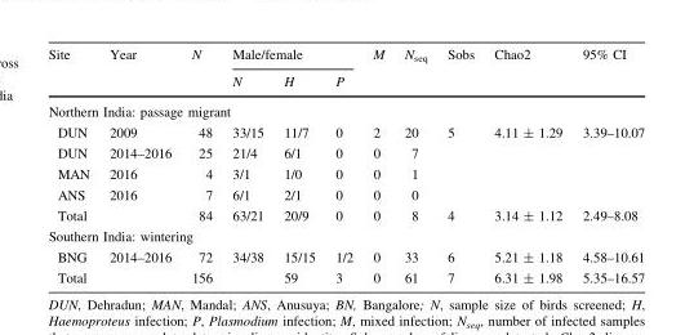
<table><thead><tr><td rowspan="2">Site</td><td rowspan="2">Year</td><td rowspan="2">N</td><td colspan="3">Male/female</td><td rowspan="2">M</td><td rowspan="2">N<sub>seq</sub></td><td rowspan="2">Sobs</td><td rowspan="2">Chao2</td><td rowspan="2">95% CI</td></tr><tr><td>N</td><td>H</td><td>P</td></tr></thead><tbody><tr><td colspan="11">Northern India: passage migrant</td></tr><tr><td>DUN</td><td>2009</td><td>48</td><td>33/15</td><td>11/7</td><td>0</td><td>2</td><td>20</td><td>5</td><td>4.11 ± 1.29</td><td>3.39–10.07</td></tr><tr><td>DUN</td><td>2014–2016</td><td>25</td><td>21/4</td><td>6/1</td><td>0</td><td>0</td><td>7</td><td></td><td></td><td></td></tr><tr><td>MAN</td><td>2016</td><td>4</td><td>3/1</td><td>1/0</td><td>0</td><td>0</td><td>1</td><td></td><td></td><td></td></tr><tr><td>ANS</td><td>2016</td><td>7</td><td>6/1</td><td>2/1</td><td>0</td><td>0</td><td>0</td><td></td><td></td><td></td></tr><tr><td>Total</td><td></td><td>84</td><td>63/21</td><td>20/9</td><td>0</td><td>0</td><td>8</td><td>4</td><td>3.14 ± 1.12</td><td>2.49–8.08</td></tr><tr><td colspan="11">Southern India: wintering</td></tr><tr><td>BNG</td><td>2014–2016</td><td>72</td><td>34/38</td><td>15/15</td><td>1/2</td><td>0</td><td>33</td><td>6</td><td>5.21 ± 1.18</td><td>4.58–10.61</td></tr><tr><td>Total</td><td></td><td>156</td><td></td><td>59</td><td>3</td><td>0</td><td>61</td><td>7</td><td>6.31 ± 1.98</td><td>5.35–16.57</td></tr></tbody></table>